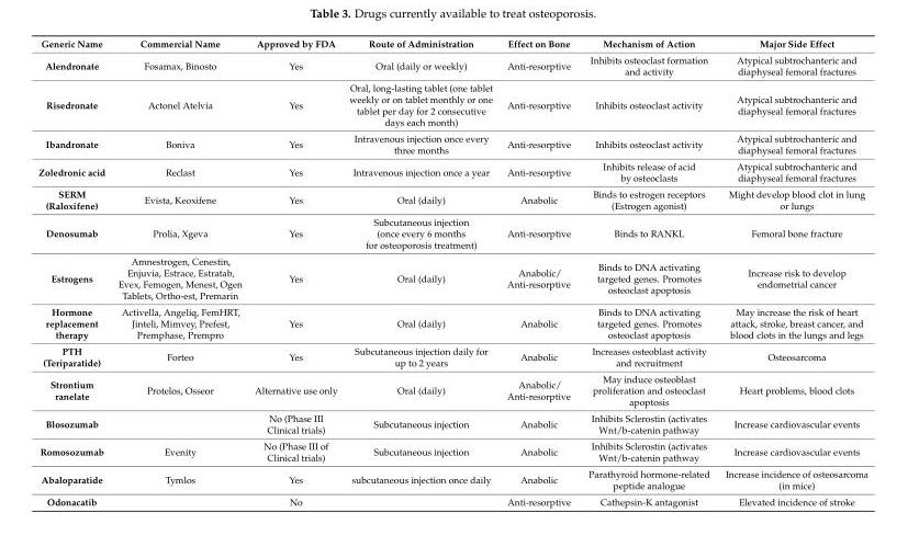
<table><thead><tr><td>Generic Name</td><td>Commercial Name</td><td>Approved by FDA</td><td>Route of Administration</td><td>Effect on Bone</td><td>Mechanism of Action</td><td>Major Side Effect</td></tr></thead><tbody><tr><td>Alendronate</td><td>Fosamax, Binosto</td><td>Yes</td><td>Oral (daily or weekly)</td><td>Anti-resorptive</td><td>Inhibits osteoclast formation and activity</td><td>Atypical subtrochanteric and diaphyseal femoral fractures</td></tr><tr><td>Risedronate</td><td>Actonel Atelvia</td><td>Yes</td><td>Oral, long-lasting tablet (one tablet weekly or on tablet monthly or one tablet per day for 2 consecutive days each month)</td><td>Anti-resorptive</td><td>Inhibits osteoclast activity</td><td>Atypical subtrochanteric and diaphyseal femoral fractures</td></tr><tr><td>Ibandronate</td><td>Boniva</td><td>Yes</td><td>Intravenous injection once every three months</td><td>Anti-resorptive</td><td>Inhibits osteoclast activity</td><td>Atypical subtrochanteric and diaphyseal femoral fractures</td></tr><tr><td>Zoledronic acid</td><td>Reclast</td><td>Yes</td><td>Intravenous injection once a year</td><td>Anti-resorptive</td><td>Inhibits release of acid by osteoclasts</td><td>Atypical subtrochanteric and diaphyseal femoral fractures</td></tr><tr><td>SERM (Raloxifene)</td><td>Evista, Keoxifene</td><td>Yes</td><td>Oral (daily)</td><td>Anabolic</td><td>Binds to estrogen receptors (Estrogen agonist)</td><td>Might develop blood clot in lung or lungs</td></tr><tr><td>Denosumab</td><td>Prolia, Xgeva</td><td>Yes</td><td>Subcutaneous injection (once every 6 months for osteoporosis treatment)</td><td>Anti-resorptive</td><td>Binds to RANKL</td><td>Femoral bone fracture</td></tr><tr><td>Estrogens</td><td>Amnestrogen, Cenestin, Enjuvia, Estrace, Estratab, Evex, Femogen, Menest, Ogen Tablets, Ortho-est, Premarin</td><td>Yes</td><td>Oral (daily)</td><td>Anabolic/ Anti-resorptive</td><td>Binds to DNA activating targeted genes. Promotes osteoclast apoptosis</td><td>Increase risk to develop endometrial cancer</td></tr><tr><td>Hormone replacement therapy</td><td>Activella, Angeliq, FemHRT, Jinteli, Mimvey, Prefest, Premphase, Prempro</td><td>Yes</td><td>Oral (daily)</td><td>Anabolic</td><td>Binds to DNA activating targeted genes. Promotes osteoclast apoptosis</td><td>May increase the risk of heart attack, stroke, breast cancer, and blood clots in the lungs and legs</td></tr><tr><td>PTH (Teriparatide)</td><td>Forteo</td><td>Yes</td><td>Subcutaneous injection daily for up to 2 years</td><td>Anabolic</td><td>Increases osteoblast activity and recruitment</td><td>Osteosarcoma</td></tr><tr><td>Strontium ranelate</td><td>Protelos, Osseor</td><td>Alternative use only</td><td>Oral (daily)</td><td>Anabolic/ Anti-resorptive</td><td>May induce osteoblast proliferation and osteoclast apoptosis</td><td>Heart problems, blood clots</td></tr><tr><td>Blosozumab</td><td></td><td>No (Phase III Clinical trials)</td><td>Subcutaneous injection</td><td>Anabolic</td><td>Inhibits Sclerostin (activates Wnt/b-catenin pathway</td><td>Increase cardiovascular events</td></tr><tr><td>Romosozumab</td><td>Evenity</td><td>No (Phase III of Clinical trials)</td><td>Subcutaneous injection</td><td>Anabolic</td><td>Inhibits Sclerostin (activates Wnt/b-catenin pathway</td><td>Increase cardiovascular events</td></tr><tr><td>Abaloparatide</td><td>Tymlos</td><td>Yes</td><td>subcutaneous injection once daily</td><td>Anabolic</td><td>Parathyroid hormone-related peptide analogue</td><td>Increase incidence of osteosarcoma (in mice)</td></tr><tr><td>Odonacatib</td><td></td><td>No</td><td></td><td>Anti-resorptive</td><td>Cathepsin-K antagonist</td><td>Elevated incidence of stroke</td></tr></tbody></table>